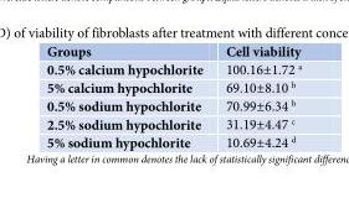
<table><thead><tr><td>Groups</td><td>Cell viability</td></tr></thead><tbody><tr><td>0.5% calcium hypochlorite</td><td>100.16±1.72 <sup>a</sup></td></tr><tr><td>5% calcium hypochlorite</td><td>69.10±8.10 <sup>b</sup></td></tr><tr><td>0.5% sodium hypochlorite</td><td>70.99±6.34 <sup>b</sup></td></tr><tr><td>2.5% sodium hypochlorite</td><td>31.19±4.47 <sup>c</sup></td></tr><tr><td>5% sodium hypochlorite</td><td>10.69±4.24 <sup>d</sup></td></tr></tbody></table>